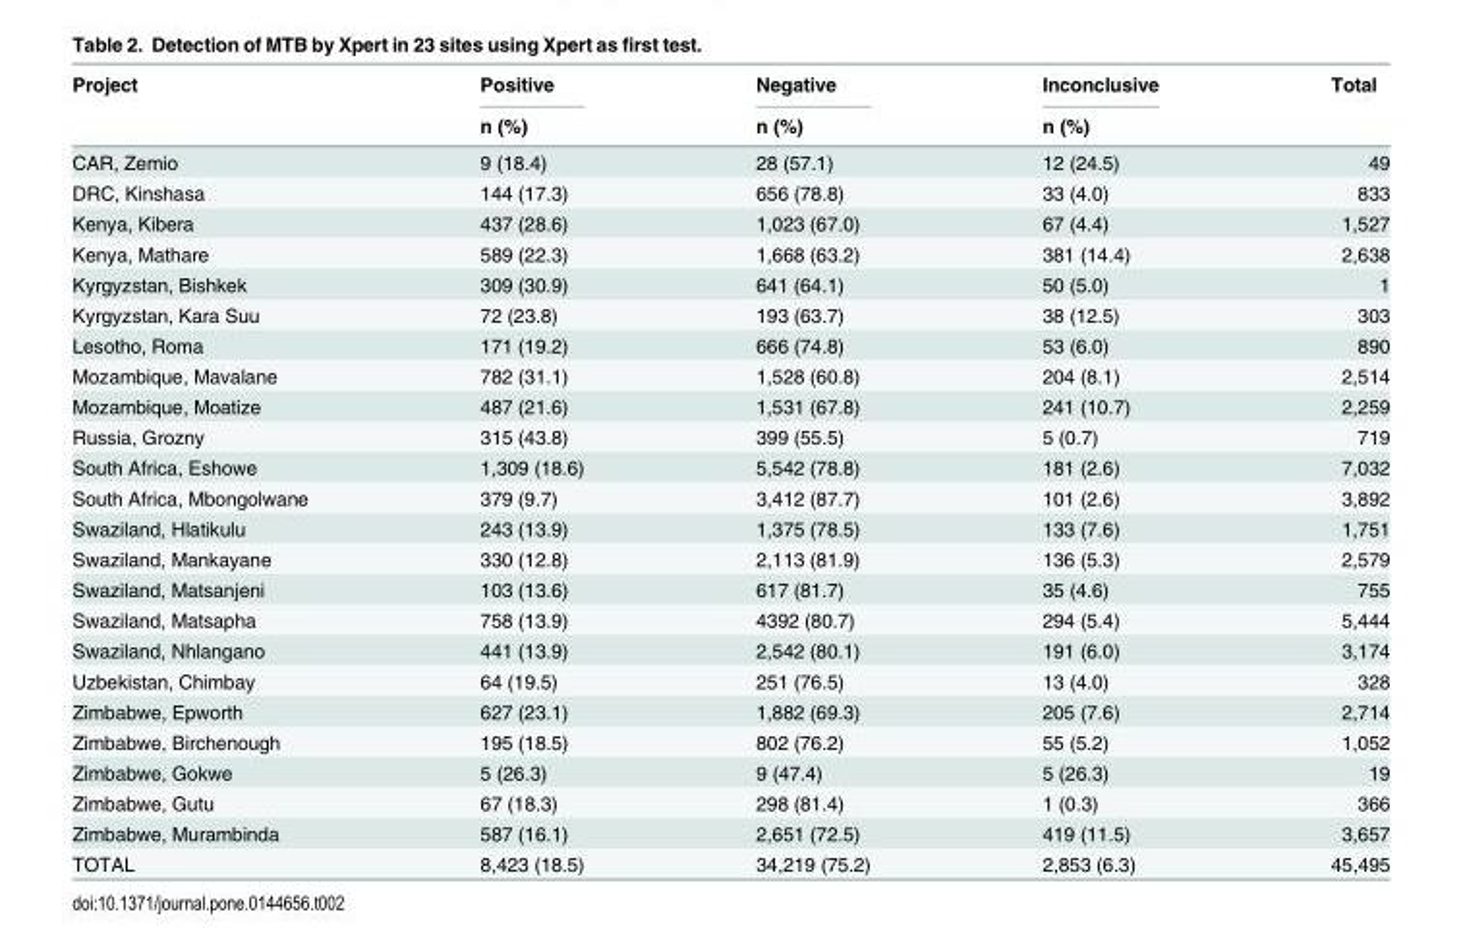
<table><thead><tr><td rowspan="2">Project</td><td rowspan="2">Positive n (%)</td><td rowspan="2">Negative n (%)</td><td rowspan="2">Inconclusive n (%)</td><td rowspan="2">Total</td></tr><tr></tr></thead><tbody><tr><td>CAR, Zemio</td><td>9 (18.4)</td><td>28 (57.1)</td><td>12 (24.5)</td><td>49</td></tr><tr><td>DRC, Kinshasa</td><td>144 (17.3)</td><td>656 (78.8)</td><td>33 (4.0)</td><td>833</td></tr><tr><td>Kenya, Kibera</td><td>437 (28.6)</td><td>1,023 (67.0)</td><td>67 (4.4)</td><td>1,527</td></tr><tr><td>Kenya, Mathare</td><td>589 (22.3)</td><td>1,668 (63.2)</td><td>381 (14.4)</td><td>2,638</td></tr><tr><td>Kyrgyzstan, Bishkek</td><td>309 (30.9)</td><td>641 (64.1)</td><td>50 (5.0)</td><td>1</td></tr><tr><td>Kyrgyzstan, Kara Suu</td><td>72 (23.8)</td><td>193 (63.7)</td><td>38 (12.5)</td><td>303</td></tr><tr><td>Lesotho, Roma</td><td>171 (19.2)</td><td>666 (74.8)</td><td>53 (6.0)</td><td>890</td></tr><tr><td>Mozambique, Mavalane</td><td>782 (31.1)</td><td>1,528 (60.8)</td><td>204 (8.1)</td><td>2,514</td></tr><tr><td>Mozambique, Moatize</td><td>487 (21.6)</td><td>1,531 (67.8)</td><td>241 (10.7)</td><td>2,259</td></tr><tr><td>Russia, Grozny</td><td>315 (43.8)</td><td>399 (55.5)</td><td>5 (0.7)</td><td>719</td></tr><tr><td>South Africa, Eshowe</td><td>1,309 (18.6)</td><td>5,542 (78.8)</td><td>181 (2.6)</td><td>7,032</td></tr><tr><td>South Africa, Mbongolwane</td><td>379 (9.7)</td><td>3,412 (87.7)</td><td>101 (2.6)</td><td>3,892</td></tr><tr><td>Swaziland, Hlatikulu</td><td>243 (13.9)</td><td>1,375 (78.5)</td><td>133 (7.6)</td><td>1,751</td></tr><tr><td>Swaziland, Mankayane</td><td>330 (12.8)</td><td>2,113 (81.9)</td><td>136 (5.3)</td><td>2,579</td></tr><tr><td>Swaziland, Matsanjeni</td><td>103 (13.6)</td><td>617 (81.7)</td><td>35 (4.6)</td><td>755</td></tr><tr><td>Swaziland, Matsapha</td><td>758 (13.9)</td><td>4392 (80.7)</td><td>294 (5.4)</td><td>5,444</td></tr><tr><td>Swaziland, Nhlangano</td><td>441 (13.9)</td><td>2,542 (80.1)</td><td>191 (6.0)</td><td>3,174</td></tr><tr><td>Uzbekistan, Chimbay</td><td>64 (19.5)</td><td>251 (76.5)</td><td>13 (4.0)</td><td>328</td></tr><tr><td>Zimbabwe, Epworth</td><td>627 (23.1)</td><td>1,882 (69.3)</td><td>205 (7.6)</td><td>2,714</td></tr><tr><td>Zimbabwe, Birchenough</td><td>195 (18.5)</td><td>802 (76.2)</td><td>55 (5.2)</td><td>1,052</td></tr><tr><td>Zimbabwe, Gokwe</td><td>5 (26.3)</td><td>9 (47.4)</td><td>5 (26.3)</td><td>19</td></tr><tr><td>Zimbabwe, Gutu</td><td>67 (18.3)</td><td>298 (81.4)</td><td>1 (0.3)</td><td>366</td></tr><tr><td>Zimbabwe, Murambinda</td><td>587 (16.1)</td><td>2,651 (72.5)</td><td>419 (11.5)</td><td>3,657</td></tr><tr><td>TOTAL</td><td>8,423 (18.5)</td><td>34,219 (75.2)</td><td>2,853 (6.3)</td><td>45,495</td></tr></tbody></table>